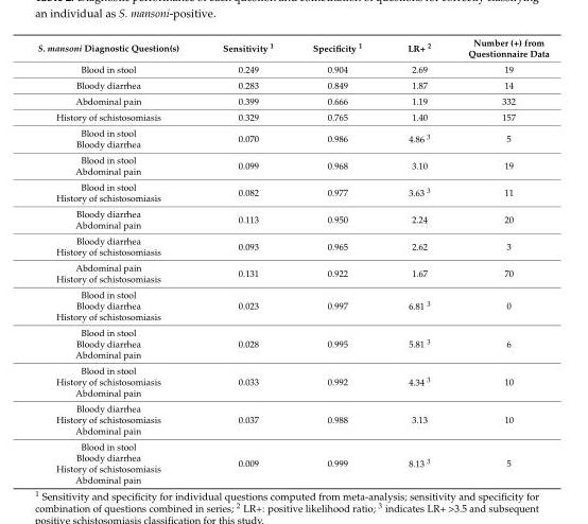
<table><thead><tr><td>S. mansoni Diagnostic Question(s)</td><td>Sensitivity <sup>1</sup></td><td>Specificity <sup>1</sup></td><td>LR+ <sup>2</sup></td><td>Number (+) from Questionnaire Data</td></tr></thead><tbody><tr><td>Blood in stool</td><td>0.249</td><td>0.904</td><td>2.69</td><td>19</td></tr><tr><td>Bloody diarrhea</td><td>0.283</td><td>0.849</td><td>1.87</td><td>14</td></tr><tr><td>Abdominal pain</td><td>0.399</td><td>0.666</td><td>1.19</td><td>332</td></tr><tr><td>History of schistosomiasis</td><td>0.329</td><td>0.765</td><td>1.40</td><td>157</td></tr><tr><td>Blood in stool Bloody diarrhea</td><td>0.070</td><td>0.986</td><td>4.86 <sup>3</sup></td><td>5</td></tr><tr><td>Blood in stool Abdominal pain</td><td>0.099</td><td>0.968</td><td>3.10</td><td>19</td></tr><tr><td>Blood in stool History of schistosomiasis</td><td>0.082</td><td>0.977</td><td>3.63 <sup>3</sup></td><td>11</td></tr><tr><td>Bloody diarrhea Abdominal pain</td><td>0.113</td><td>0.950</td><td>2.24</td><td>20</td></tr><tr><td>Bloody diarrhea History of schistosomiasis</td><td>0.093</td><td>0.965</td><td>2.62</td><td>3</td></tr><tr><td>Abdominal pain History of schistosomiasis</td><td>0.131</td><td>0.922</td><td>1.67</td><td>70</td></tr><tr><td>Blood in stool Bloody diarrhea History of schistosomiasis</td><td>0.023</td><td>0.997</td><td>6.81 <sup>3</sup></td><td>0</td></tr><tr><td>Blood in stool Bloody diarrhea Abdominal pain</td><td>0.028</td><td>0.995</td><td>5.81 <sup>3</sup></td><td>6</td></tr><tr><td>Blood in stool History of schistosomiasis Abdominal pain</td><td>0.033</td><td>0.992</td><td>4.34 <sup>3</sup></td><td>10</td></tr><tr><td>Bloody diarrhea History of schistosomiasis Abdominal pain</td><td>0.037</td><td>0.988</td><td>3.13</td><td>10</td></tr><tr><td>Blood in stool Bloody diarrhea History of schistosomiasis Abdominal pain</td><td>0.009</td><td>0.999</td><td>8.13 <sup>3</sup></td><td>5</td></tr></tbody></table>